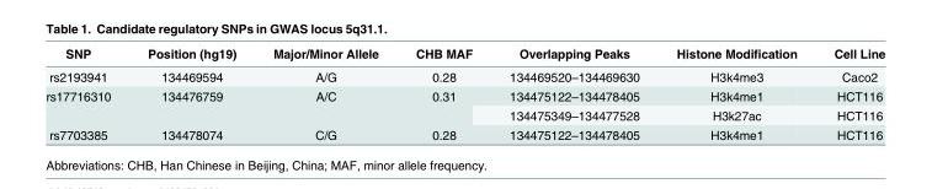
<table><thead><tr><td>SNP</td><td>Position (hg19)</td><td>Major/Minor Allele</td><td>CHB MAF</td><td>Overlapping Peaks</td><td>Histone Modification</td><td>Cell Line</td></tr></thead><tbody><tr><td>rs2193941</td><td>134469594</td><td>A/G</td><td>0.28</td><td>134469520–134469630</td><td>H3k4me3</td><td>Caco2</td></tr><tr><td rowspan="2">rs17716310</td><td rowspan="2">134476759</td><td rowspan="2">A/C</td><td rowspan="2">0.31</td><td>134475122–134478405</td><td>H3k4me1</td><td>HCT116</td></tr><tr><td>134475349–134477528</td><td>H3k27ac</td><td>HCT116</td></tr><tr><td>rs7703385</td><td>134478074</td><td>C/G</td><td>0.28</td><td>134475122–134478405</td><td>H3k4me1</td><td>HCT116</td></tr></tbody></table>